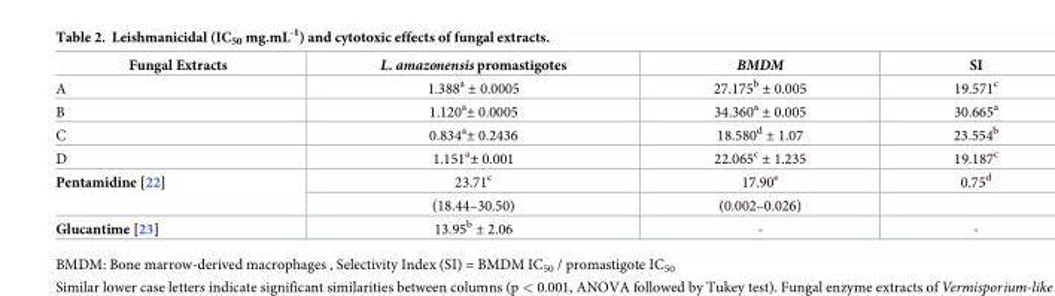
<table><thead><tr><td>Fungal Extracts</td><td>L. amazonensis promastigotes</td><td>BMDM</td><td>SI</td></tr></thead><tbody><tr><td>A</td><td>1.388<sup>a</sup> ± 0.0005</td><td>27.175<sup>b</sup> ± 0.005</td><td>19.571<sup>c</sup></td></tr><tr><td>B</td><td>1.120<sup>a</sup>± 0.0005</td><td>34.360<sup>a</sup> ± 0.005</td><td>30.665<sup>a</sup></td></tr><tr><td>C</td><td>0.834<sup>a</sup>± 0.2436</td><td>18.580<sup>d</sup> ± 1.07</td><td>23.554<sup>b</sup></td></tr><tr><td>D</td><td>1.151<sup>a</sup>± 0.001</td><td>22.065<sup>c</sup> ± 1.235</td><td>19.187<sup>c</sup></td></tr><tr><td rowspan="2">Pentamidine [22]</td><td>23.71<sup>c</sup></td><td>17.90<sup>e</sup></td><td>0.75<sup>d</sup></td></tr><tr><td>(18.44–30.50)</td><td>(0.002–0.026)</td><td></td></tr><tr><td>Glucantime [23]</td><td>13.95<sup>b</sup> ± 2.06</td><td>-</td><td>-</td></tr></tbody></table>